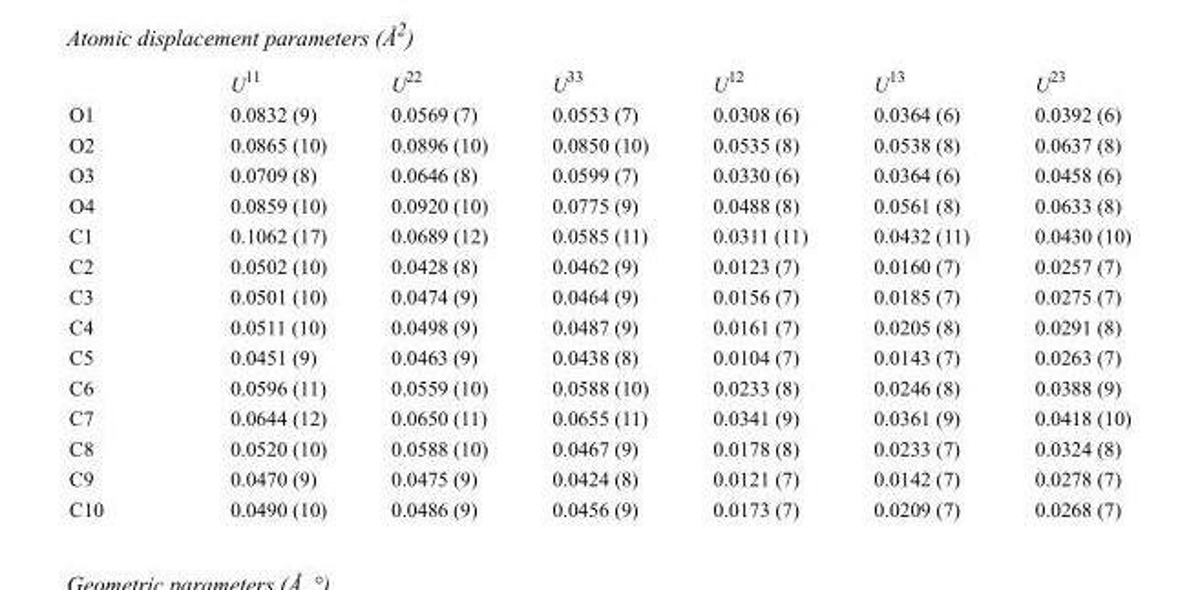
<table><thead><tr><td></td><td>U<sup>11</sup></td><td>U<sup>22</sup></td><td>U<sup>33</sup></td><td>U<sup>12</sup></td><td>U<sup>13</sup></td><td>U<sup>23</sup></td></tr></thead><tbody><tr><td>O1</td><td>0.0832 (9)</td><td>0.0569 (7)</td><td>0.0553 (7)</td><td>0.0308 (6)</td><td>0.0364 (6)</td><td>0.0392 (6)</td></tr><tr><td>O2</td><td>0.0865 (10)</td><td>0.0896 (10)</td><td>0.0850 (10)</td><td>0.0535 (8)</td><td>0.0538 (8)</td><td>0.0637 (8)</td></tr><tr><td>O3</td><td>0.0709 (8)</td><td>0.0646 (8)</td><td>0.0599 (7)</td><td>0.0330 (6)</td><td>0.0364 (6)</td><td>0.0458 (6)</td></tr><tr><td>O4</td><td>0.0859 (10)</td><td>0.0920 (10)</td><td>0.0775 (9)</td><td>0.0488 (8)</td><td>0.0561 (8)</td><td>0.0633 (8)</td></tr><tr><td>C1</td><td>0.1062 (17)</td><td>0.0689 (12)</td><td>0.0585 (11)</td><td>0.0311 (11)</td><td>0.0432 (11)</td><td>0.0430 (10)</td></tr><tr><td>C2</td><td>0.0502 (10)</td><td>0.0428 (8)</td><td>0.0462 (9)</td><td>0.0123 (7)</td><td>0.0160 (7)</td><td>0.0257 (7)</td></tr><tr><td>C3</td><td>0.0501 (10)</td><td>0.0474 (9)</td><td>0.0464 (9)</td><td>0.0156 (7)</td><td>0.0185 (7)</td><td>0.0275 (7)</td></tr><tr><td>C4</td><td>0.0511 (10)</td><td>0.0498 (9)</td><td>0.0487 (9)</td><td>0.0161 (7)</td><td>0.0205 (8)</td><td>0.0291 (8)</td></tr><tr><td>C5</td><td>0.0451 (9)</td><td>0.0463 (9)</td><td>0.0438 (8)</td><td>0.0104 (7)</td><td>0.0143 (7)</td><td>0.0263 (7)</td></tr><tr><td>C6</td><td>0.0596 (11)</td><td>0.0559 (10)</td><td>0.0588 (10)</td><td>0.0233 (8)</td><td>0.0246 (8)</td><td>0.0388 (9)</td></tr><tr><td>C7</td><td>0.0644 (12)</td><td>0.0650 (11)</td><td>0.0655 (11)</td><td>0.0341 (9)</td><td>0.0361 (9)</td><td>0.0418 (10)</td></tr><tr><td>C8</td><td>0.0520 (10)</td><td>0.0588 (10)</td><td>0.0467 (9)</td><td>0.0178 (8)</td><td>0.0233 (7)</td><td>0.0324 (8)</td></tr><tr><td>C9</td><td>0.0470 (9)</td><td>0.0475 (9)</td><td>0.0424 (8)</td><td>0.0121 (7)</td><td>0.0142 (7)</td><td>0.0278 (7)</td></tr><tr><td>C10</td><td>0.0490 (10)</td><td>0.0486 (9)</td><td>0.0456 (9)</td><td>0.0173 (7)</td><td>0.0209 (7)</td><td>0.0268 (7)</td></tr></tbody></table>